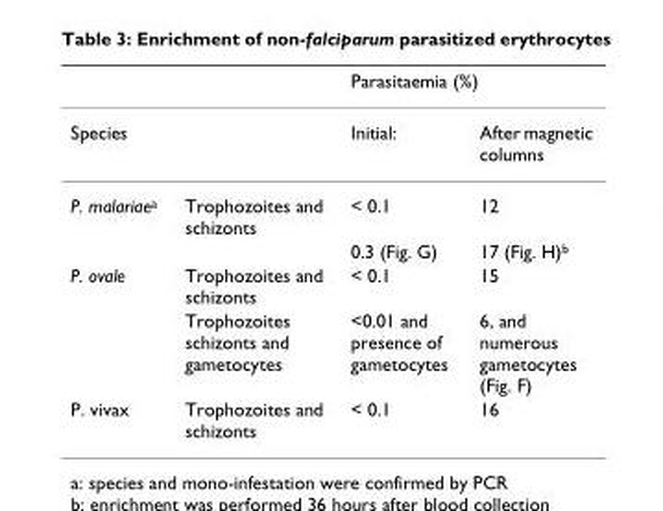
<table><thead><tr><td rowspan="2">Species</td><td rowspan="2"></td><td colspan="2">Parasitaemia (%)</td></tr><tr><td>Initial:</td><td>After magnetic columns</td></tr></thead><tbody><tr><td rowspan="2">P. malariae<sup>a</sup></td><td>Trophozoites and schizonts</td><td>&lt; 0.1</td><td>12</td></tr><tr><td></td><td>0.3 (Fig. G)</td><td>17 (Fig. H)<sup>b</sup></td></tr><tr><td rowspan="2">P. ovale</td><td>Trophozoites and schizonts</td><td>&lt; 0.1</td><td>15</td></tr><tr><td>Trophozoites schizonts and gametocytes</td><td>&lt;0.01 and presence of gametocytes</td><td>6, and numerous gametocytes (Fig. F)</td></tr><tr><td>P. vivax</td><td>Trophozoites and schizonts</td><td>&lt; 0.1</td><td>16</td></tr></tbody></table>